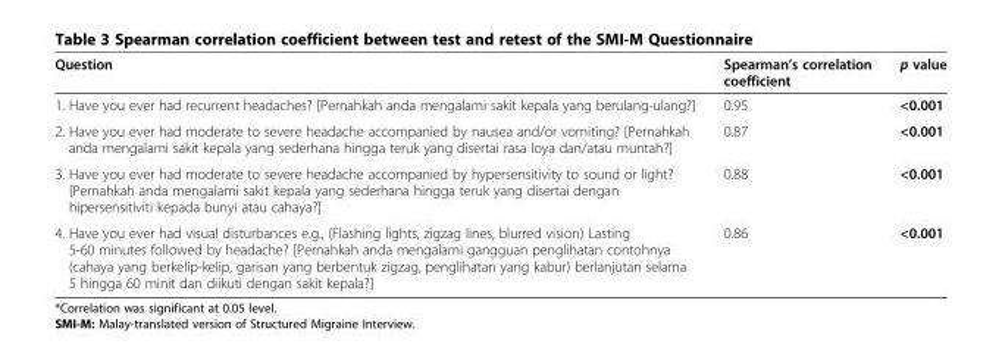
<table><thead><tr><td>Question</td><td>Spearman’s correlation coefficient</td><td>p value</td></tr></thead><tbody><tr><td>1. Have you ever had recurrent headaches? [Pernahkah anda mengalami sakit kepala yang berulang-ulang?]</td><td>0.95</td><td>&lt;0.001</td></tr><tr><td>2. Have you ever had moderate to severe headache accompanied by nausea and/or vomiting? [Pernahkah anda mengalami sakit kepala yang sederhana hingga teruk yang disertai rasa loya dan/atau muntah?]</td><td>0.87</td><td>&lt;0.001</td></tr><tr><td>3. Have you ever had moderate to severe headache accompanied by hypersensitivity to sound or light? [Pernahkah anda mengalami sakit kepala yang sederhana hingga teruk yang disertai dengan hipersensitiviti kepada bunyi atau cahaya?]</td><td>0.88</td><td>&lt;0.001</td></tr><tr><td>4. Have you ever had visual disturbances e.g., (Flashing lights, zigzag lines, blurred vision) Lasting 5-60 minutes followed by headache? [Pernahkah anda mengalami gangguan penglihatan contohnya (cahaya yang berkelip-kelip, garisan yang berbentuk zigzag, penglihatan yang kabur) berlanjutan selama 5 hingga 60 minit dan diikuti dengan sakit kepala?]</td><td>0.86</td><td>&lt;0.001</td></tr></tbody></table>